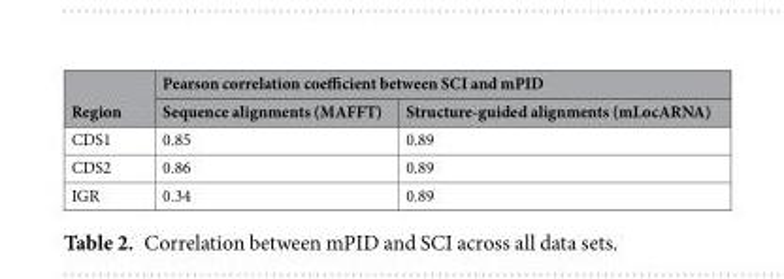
<table><thead><tr><td rowspan="2">Region</td><td colspan="2">Pearson correlation coefficient between SCI and mPID</td></tr><tr><td>Sequence alignments (MAFFT)</td><td>Structure-guided alignments (mLocARNA)</td></tr></thead><tbody><tr><td>CDS1</td><td>0.85</td><td>0.89</td></tr><tr><td>CDS2</td><td>0.86</td><td>0.89</td></tr><tr><td>IGR</td><td>0.34</td><td>0.89</td></tr></tbody></table>